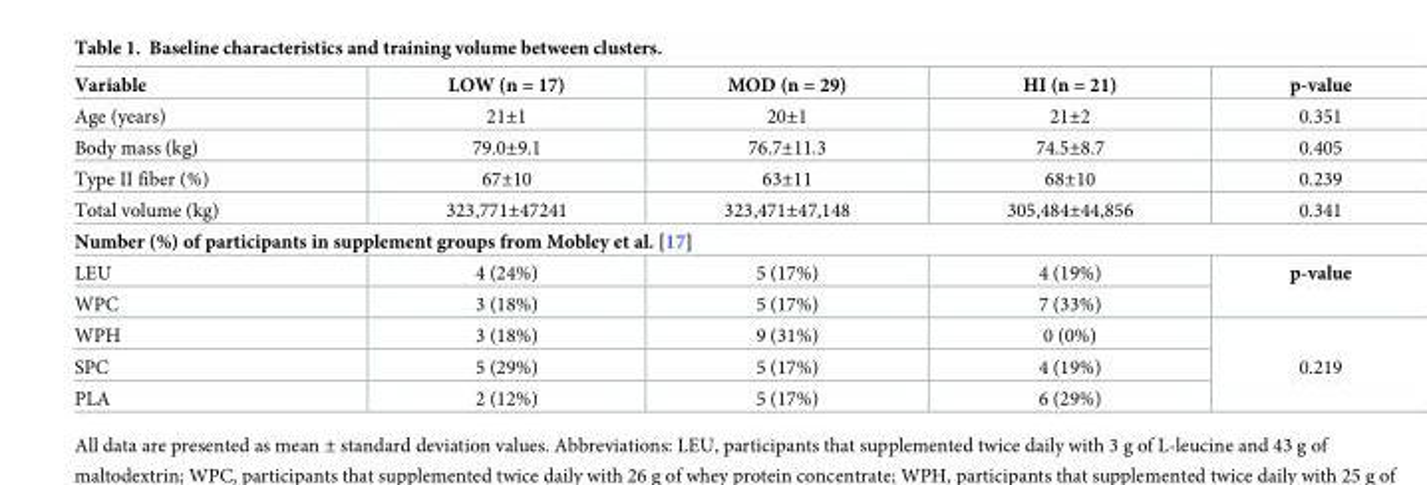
<table><thead><tr><td>Variable</td><td>LOW (n = 17)</td><td>MOD (n = 29)</td><td>HI (n = 21)</td><td>p-value</td></tr></thead><tbody><tr><td>Age (years)</td><td>21±1</td><td>20±1</td><td>21±2</td><td>0.351</td></tr><tr><td>Body mass (kg)</td><td>79.0±9.1</td><td>76.7±11.3</td><td>74.5±8.7</td><td>0.405</td></tr><tr><td>Type II fiber (%)</td><td>67±10</td><td>63±11</td><td>68±10</td><td>0.239</td></tr><tr><td>Total volume (kg)</td><td>323,771±47241</td><td>323,471±47,148</td><td>305,484±44,856</td><td>0.341</td></tr><tr><td colspan="5">Number (%) of participants in supplement groups from Mobley et al. [17]</td></tr><tr><td>LEU</td><td>4 (24%)</td><td>5 (17%)</td><td>4 (19%)</td><td rowspan="2">p-value</td></tr><tr><td>WPC</td><td>3 (18%)</td><td>5 (17%)</td><td>7 (33%)</td></tr><tr><td>WPH</td><td>3 (18%)</td><td>9 (31%)</td><td>0 (0%)</td><td rowspan="3">0.219</td></tr><tr><td>SPC</td><td>5 (29%)</td><td>5 (17%)</td><td>4 (19%)</td></tr><tr><td>PLA</td><td>2 (12%)</td><td>5 (17%)</td><td>6 (29%)</td></tr></tbody></table>